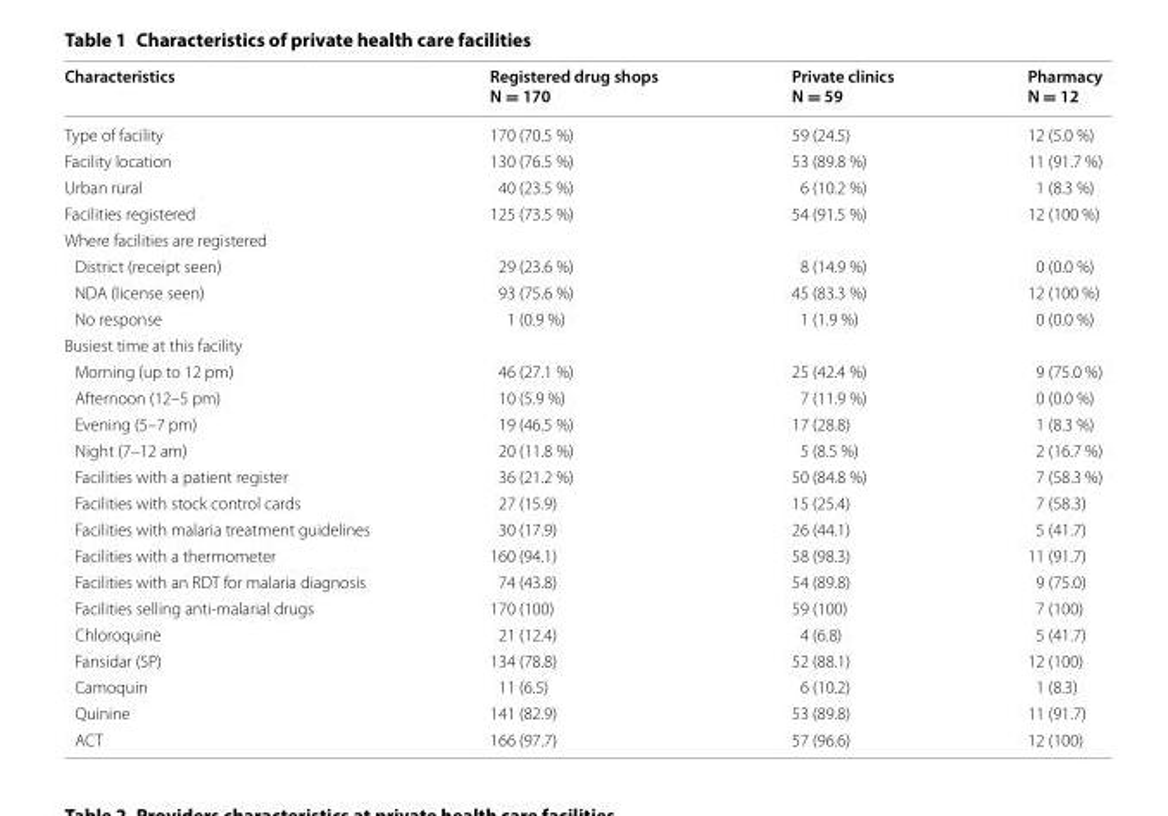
<table><thead><tr><td>Characteristics</td><td>Registered drug shops N = 170</td><td>Private clinics N = 59</td><td>Pharmacy N = 12</td></tr></thead><tbody><tr><td>Type of facility</td><td>170 (70.5 %)</td><td>59 (24.5)</td><td>12 (5.0 %)</td></tr><tr><td>Facility location</td><td>130 (76.5 %)</td><td>53 (89.8 %)</td><td>11 (91.7 %)</td></tr><tr><td>Urban rural</td><td>40 (23.5 %)</td><td>6 (10.2 %)</td><td>1 (8.3 %)</td></tr><tr><td>Facilities registered</td><td>125 (73.5 %)</td><td>54 (91.5 %)</td><td>12 (100 %)</td></tr><tr><td colspan="4">Where facilities are registered</td></tr><tr><td>District (receipt seen)</td><td>29 (23.6 %)</td><td>8 (14.9 %)</td><td>0 (0.0 %)</td></tr><tr><td>NDA (license seen)</td><td>93 (75.6 %)</td><td>45 (83.3 %)</td><td>12 (100 %)</td></tr><tr><td>No response</td><td>1 (0.9 %)</td><td>1 (1.9 %)</td><td>0 (0.0 %)</td></tr><tr><td colspan="4">Busiest time at this facility</td></tr><tr><td>Morning (up to 12 pm)</td><td>46 (27.1 %)</td><td>25 (42.4 %)</td><td>9 (75.0 %)</td></tr><tr><td>Afternoon (12–5 pm)</td><td>10 (5.9 %)</td><td>7 (11.9 %)</td><td>0 (0.0 %)</td></tr><tr><td>Evening (5–7 pm)</td><td>19 (46.5 %)</td><td>17 (28.8)</td><td>1 (8.3 %)</td></tr><tr><td>Night (7–12 am)</td><td>20 (11.8 %)</td><td>5 (8.5 %)</td><td>2 (16.7 %)</td></tr><tr><td>Facilities with a patient register</td><td>36 (21.2 %)</td><td>50 (84.8 %)</td><td>7 (58.3 %)</td></tr><tr><td>Facilities with stock control cards</td><td>27 (15.9)</td><td>15 (25.4)</td><td>7 (58.3)</td></tr><tr><td>Facilities with malaria treatment guidelines</td><td>30 (17.9)</td><td>26 (44.1)</td><td>5 (41.7)</td></tr><tr><td>Facilities with a thermometer</td><td>160 (94.1)</td><td>58 (98.3)</td><td>11 (91.7)</td></tr><tr><td>Facilities with an RDT for malaria diagnosis</td><td>74 (43.8)</td><td>54 (89.8)</td><td>9 (75.0)</td></tr><tr><td>Facilities selling anti-malarial drugs</td><td>170 (100)</td><td>59 (100)</td><td>7 (100)</td></tr><tr><td>Chloroquine</td><td>21 (12.4)</td><td>4 (6.8)</td><td>5 (41.7)</td></tr><tr><td>Fansidar (SP)</td><td>134 (78.8)</td><td>52 (88.1)</td><td>12 (100)</td></tr><tr><td>Camoquin</td><td>11 (6.5)</td><td>6 (10.2)</td><td>1 (8.3)</td></tr><tr><td>Quinine</td><td>141 (82.9)</td><td>53 (89.8)</td><td>11 (91.7)</td></tr><tr><td>ACT</td><td>166 (97.7)</td><td>57 (96.6)</td><td>12 (100)</td></tr></tbody></table>